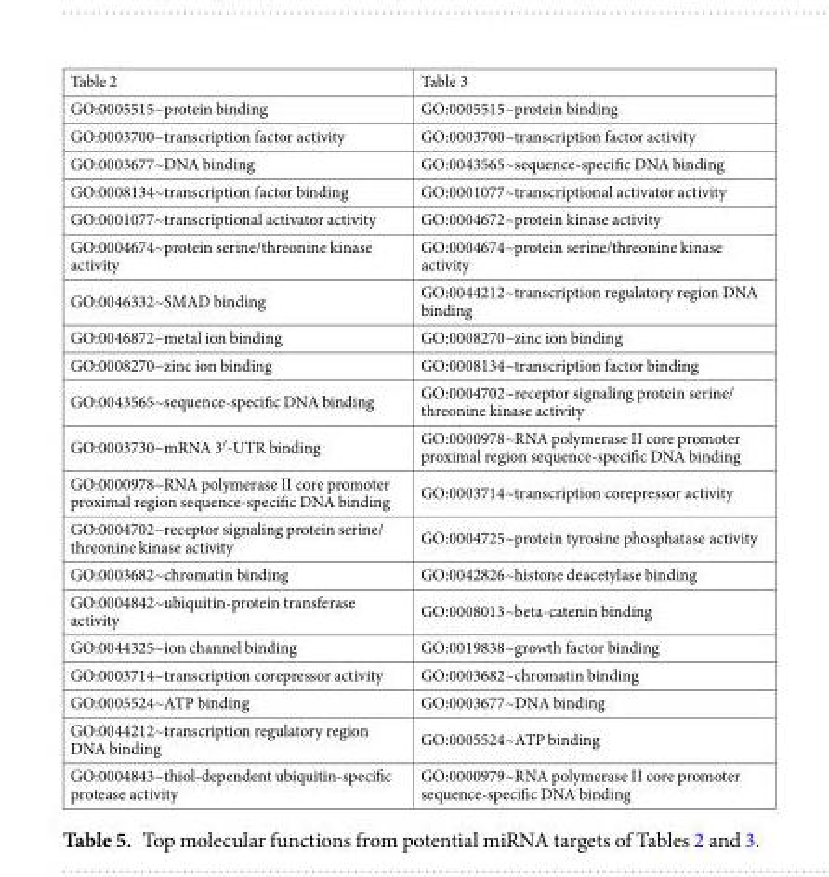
<table><tbody><tr><td>Table 2</td><td>Table 3</td></tr><tr><td>GO:0005515~protein binding</td><td>GO:0005515~protein binding</td></tr><tr><td>GO:0003700~transcription factor activity</td><td>GO:0003700~transcription factor activity</td></tr><tr><td>GO:0003677~DNA binding</td><td>GO:0043565~sequence-specific DNA binding</td></tr><tr><td>GO:0008134~transcription factor binding</td><td>GO:0001077~transcriptional activator activity</td></tr><tr><td>GO:0001077~transcriptional activator activity</td><td>GO:0004672~protein kinase activity</td></tr><tr><td>GO:0004674~protein serine/threonine kinase activity</td><td>GO:0004674~protein serine/threonine kinase activity</td></tr><tr><td>GO:0046332~SMAD binding</td><td>GO:0044212~transcription regulatory region DNA binding</td></tr><tr><td>GO:0046872~metal ion binding</td><td>GO:0008270~zinc ion binding</td></tr><tr><td>GO:0008270~zinc ion binding</td><td>GO:0008134~transcription factor binding</td></tr><tr><td>GO:0043565~sequence-specific DNA binding</td><td>GO:0004702~receptor signaling protein serine/ threonine kinase activity</td></tr><tr><td>GO:0003730~mRNA 3′-UTR binding</td><td>GO:0000978~RNA polymerase II core promoter proximal region sequence-specific DNA binding</td></tr><tr><td>GO:0000978~RNA polymerase II core promoter proximal region sequence-specific DNA binding</td><td>GO:0003714~transcription corepressor activity</td></tr><tr><td>GO:0004702~receptor signaling protein serine/ threonine kinase activity</td><td>GO:0004725~protein tyrosine phosphatase activity</td></tr><tr><td>GO:0003682~chromatin binding</td><td>GO:0042826~histone deacetylase binding</td></tr><tr><td>GO:0004842~ubiquitin-protein transferase activity</td><td>GO:0008013~beta-catenin binding</td></tr><tr><td>GO:0044325~ion channel binding</td><td>GO:0019838~growth factor binding</td></tr><tr><td>GO:0003714~transcription corepressor activity</td><td>GO:0003682~chromatin binding</td></tr><tr><td>GO:0005524~ATP binding</td><td>GO:0003677~DNA binding</td></tr><tr><td>GO:0044212~transcription regulatory region DNA binding</td><td>GO:0005524~ATP binding</td></tr><tr><td>GO:0004843~thiol-dependent ubiquitin-specific protease activity</td><td>GO:0000979~RNA polymerase II core promoter sequence-specific DNA binding</td></tr></tbody></table>